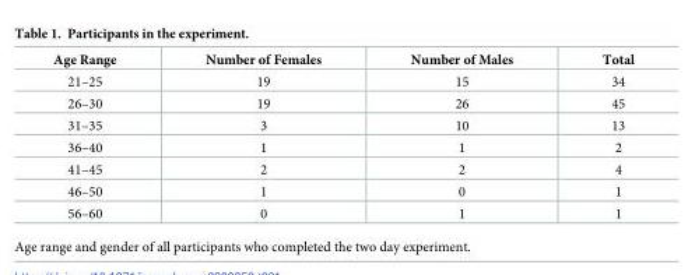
<table><thead><tr><td>Age Range</td><td>Number of Females</td><td>Number of Males</td><td>Total</td></tr></thead><tbody><tr><td>21–25</td><td>19</td><td>15</td><td>34</td></tr><tr><td>26–30</td><td>19</td><td>26</td><td>45</td></tr><tr><td>31–35</td><td>3</td><td>10</td><td>13</td></tr><tr><td>36–40</td><td>1</td><td>1</td><td>2</td></tr><tr><td>41–45</td><td>2</td><td>2</td><td>4</td></tr><tr><td>46–50</td><td>1</td><td>0</td><td>1</td></tr><tr><td>56–60</td><td>0</td><td>1</td><td>1</td></tr></tbody></table>